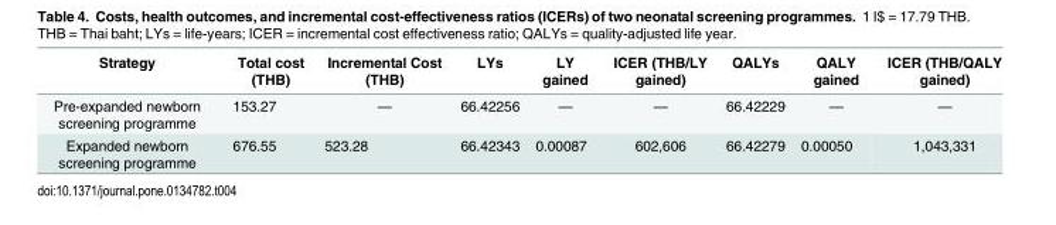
<table><thead><tr><td>Strategy</td><td>Total cost (THB)</td><td>Incremental Cost (THB)</td><td>LYs</td><td>LY gained</td><td>ICER (THB/LY gained)</td><td>QALYs</td><td>QALY gained</td><td>ICER (THB/QALY gained)</td></tr></thead><tbody><tr><td>Pre-expanded newborn screening programme</td><td>153.27</td><td>—</td><td>66.42256</td><td>—</td><td>—</td><td>66.42229</td><td>—</td><td>—</td></tr><tr><td>Expanded newborn screening programme</td><td>676.55</td><td>523.28</td><td>66.42343</td><td>0.00087</td><td>602,606</td><td>66.42279</td><td>0.00050</td><td>1,043,331</td></tr></tbody></table>